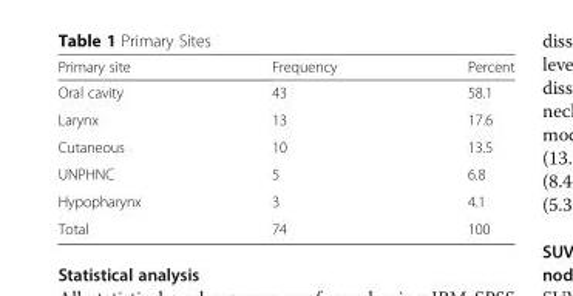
<table><thead><tr><td>Primary site</td><td>Frequency</td><td>Percent</td></tr></thead><tbody><tr><td>Oral cavity</td><td>43</td><td>58.1</td></tr><tr><td>Larynx</td><td>13</td><td>17.6</td></tr><tr><td>Cutaneous</td><td>10</td><td>13.5</td></tr><tr><td>UNPHNC</td><td>5</td><td>6.8</td></tr><tr><td>Hypopharynx</td><td>3</td><td>4.1</td></tr><tr><td>Total</td><td>74</td><td>100</td></tr></tbody></table>